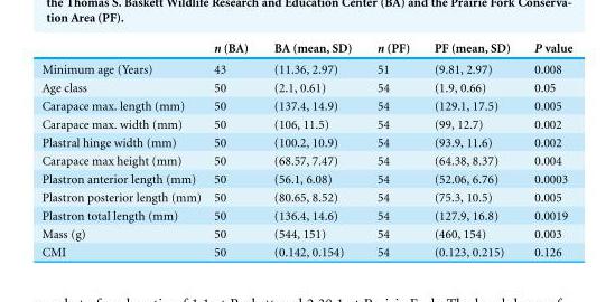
<table><thead><tr><td></td><td>n (BA)</td><td>BA (mean, SD)</td><td>n (PF)</td><td>PF (mean, SD)</td><td>P value</td></tr></thead><tbody><tr><td>Minimum age (Years)</td><td>43</td><td>(11.36, 2.97)</td><td>51</td><td>(9.81, 2.97)</td><td>0.008</td></tr><tr><td>Age class</td><td>50</td><td>(2.1, 0.61)</td><td>54</td><td>(1.9, 0.66)</td><td>0.05</td></tr><tr><td>Carapace max. length (mm)</td><td>50</td><td>(137.4, 14.9)</td><td>54</td><td>(129.1, 17.5)</td><td>0.005</td></tr><tr><td>Carapace max. width (mm)</td><td>50</td><td>(106, 11.5)</td><td>54</td><td>(99, 12.7)</td><td>0.002</td></tr><tr><td>Plastral hinge width (mm)</td><td>50</td><td>(100.2, 10.9)</td><td>54</td><td>(93.9, 11.6)</td><td>0.002</td></tr><tr><td>Carapace max height (mm)</td><td>50</td><td>(68.57, 7.47)</td><td>54</td><td>(64.38, 8.37)</td><td>0.004</td></tr><tr><td>Plastron anterior length (mm)</td><td>50</td><td>(56.1, 6.08)</td><td>54</td><td>(52.06, 6.76)</td><td>0.0003</td></tr><tr><td>Plastron posterior length (mm)</td><td>50</td><td>(80.65, 8.52)</td><td>54</td><td>(75.3, 10.5)</td><td>0.005</td></tr><tr><td>Plastron total length (mm)</td><td>50</td><td>(136.4, 14.6)</td><td>54</td><td>(127.9, 16.8)</td><td>0.0019</td></tr><tr><td>Mass (g)</td><td>50</td><td>(544, 151)</td><td>54</td><td>(460, 154)</td><td>0.003</td></tr><tr><td>CMI</td><td>50</td><td>(0.142, 0.154)</td><td>54</td><td>(0.123, 0.215)</td><td>0.126</td></tr></tbody></table>